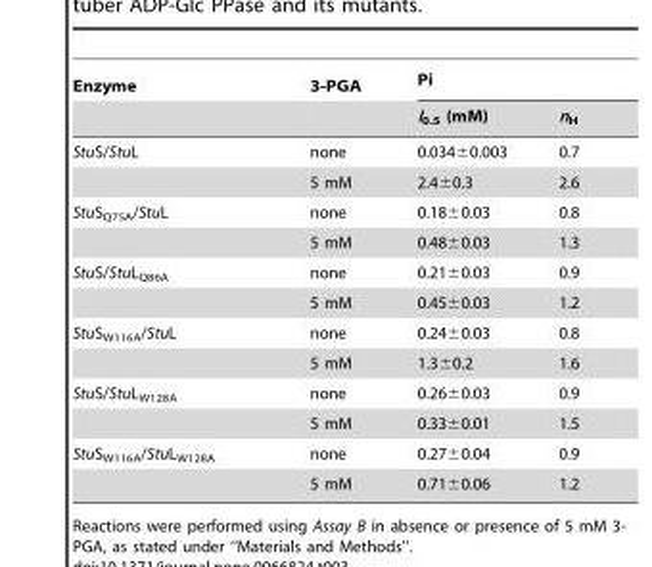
<table><thead><tr><td rowspan="2">Enzyme</td><td rowspan="2">3-PGA</td><td colspan="2">Pi</td></tr><tr><td>I<sub>0.5</sub> (mM)</td><td>n<sub>H</sub></td></tr></thead><tbody><tr><td rowspan="2">StuS/StuL</td><td>none</td><td>0.034±0.003</td><td>0.7</td></tr><tr><td>5 mM</td><td>2.4±0.3</td><td>2.6</td></tr><tr><td rowspan="2">StuS<sub>Q75A</sub>/StuL</td><td>none</td><td>0.18±0.03</td><td>0.8</td></tr><tr><td>5 mM</td><td>0.48±0.03</td><td>1.3</td></tr><tr><td rowspan="2">StuS/StuL<sub>Q86A</sub></td><td>none</td><td>0.21±0.03</td><td>0.9</td></tr><tr><td>5 mM</td><td>0.45±0.03</td><td>1.2</td></tr><tr><td rowspan="2">StuS<sub>W116A</sub>/StuL</td><td>none</td><td>0.24±0.03</td><td>0.8</td></tr><tr><td>5 mM</td><td>1.3±0.2</td><td>1.6</td></tr><tr><td rowspan="2">StuS/StuL<sub>W128A</sub></td><td>none</td><td>0.26±0.03</td><td>0.9</td></tr><tr><td>5 mM</td><td>0.33±0.01</td><td>1.5</td></tr><tr><td rowspan="2">StuS<sub>W116A</sub>/StuL<sub>W128A</sub></td><td>none</td><td>0.27±0.04</td><td>0.9</td></tr><tr><td>5 mM</td><td>0.71±0.06</td><td>1.2</td></tr></tbody></table>